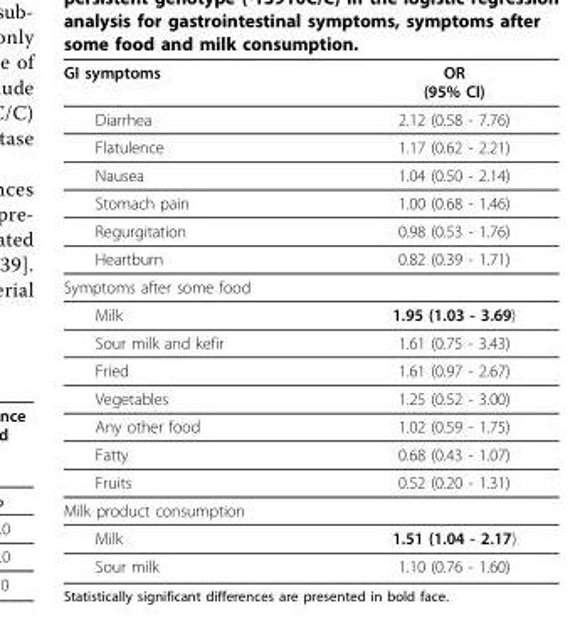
<table><thead><tr><td>GI symptoms</td><td>OR (95% CI)</td></tr></thead><tbody><tr><td>Diarrhea</td><td>2.12 (0.58 - 7.76)</td></tr><tr><td>Flatulence</td><td>1.17 (0.62 - 2.21)</td></tr><tr><td>Nausea</td><td>1.04 (0.50 - 2.14)</td></tr><tr><td>Stomach pain</td><td>1.00 (0.68 - 1.46)</td></tr><tr><td>Regurgitation</td><td>0.98 (0.53 - 1.76)</td></tr><tr><td>Heartburn</td><td>0.82 (0.39 - 1.71)</td></tr><tr><td colspan="2">Symptoms after some food</td></tr><tr><td>Milk</td><td>1.95 (1.03 - 3.69)</td></tr><tr><td>Sour milk and kefir</td><td>1.61 (0.75 - 3.43)</td></tr><tr><td>Fried</td><td>1.61 (0.97 - 2.67)</td></tr><tr><td>Vegetables</td><td>1.25 (0.52 - 3.00)</td></tr><tr><td>Any other food</td><td>1.02 (0.59 - 1.75)</td></tr><tr><td>Fatty</td><td>0.68 (0.43 - 1.07)</td></tr><tr><td>Fruits</td><td>0.52 (0.20 - 1.31)</td></tr><tr><td colspan="2">Milk product consumption</td></tr><tr><td>Milk</td><td>1.51 (1.04 - 2.17)</td></tr><tr><td>Sour milk</td><td>1.10 (0.76 - 1.60)</td></tr></tbody></table>